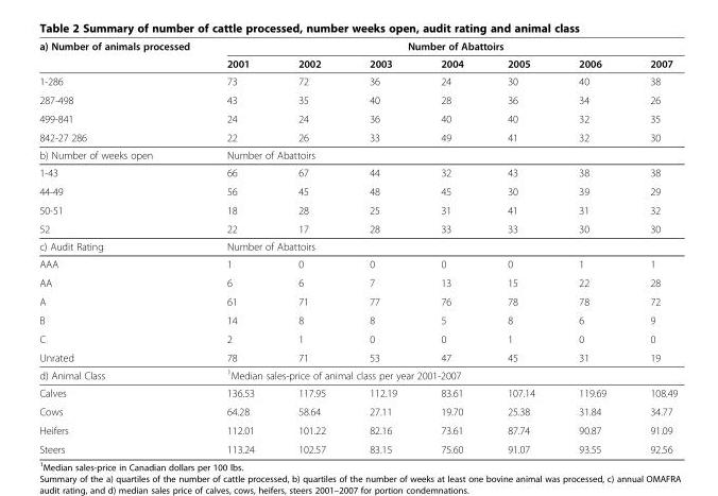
<table><thead><tr><td rowspan="2">a) Number of animals processed</td><td colspan="7">Number of Abattoirs</td></tr><tr><td>2001</td><td>2002</td><td>2003</td><td>2004</td><td>2005</td><td>2006</td><td>2007</td></tr></thead><tbody><tr><td>1-286</td><td>73</td><td>72</td><td>36</td><td>24</td><td>30</td><td>40</td><td>38</td></tr><tr><td>287-498</td><td>43</td><td>35</td><td>40</td><td>28</td><td>36</td><td>34</td><td>26</td></tr><tr><td>499-841</td><td>24</td><td>24</td><td>36</td><td>40</td><td>40</td><td>32</td><td>35</td></tr><tr><td>842-27 286</td><td>22</td><td>26</td><td>33</td><td>49</td><td>41</td><td>32</td><td>30</td></tr><tr><td>b) Number of weeks open</td><td colspan="7">Number of Abattoirs</td></tr><tr><td>1-43</td><td>66</td><td>67</td><td>44</td><td>32</td><td>43</td><td>38</td><td>38</td></tr><tr><td>44-49</td><td>56</td><td>45</td><td>48</td><td>45</td><td>30</td><td>39</td><td>29</td></tr><tr><td>50-51</td><td>18</td><td>28</td><td>25</td><td>31</td><td>41</td><td>31</td><td>32</td></tr><tr><td>52</td><td>22</td><td>17</td><td>28</td><td>33</td><td>33</td><td>30</td><td>30</td></tr><tr><td>c) Audit Rating</td><td colspan="7">Number of Abattoirs</td></tr><tr><td>AAA</td><td>1</td><td>0</td><td>0</td><td>0</td><td>0</td><td>1</td><td>1</td></tr><tr><td>AA</td><td>6</td><td>6</td><td>7</td><td>13</td><td>15</td><td>22</td><td>28</td></tr><tr><td>A</td><td>61</td><td>71</td><td>77</td><td>76</td><td>78</td><td>78</td><td>72</td></tr><tr><td>B</td><td>14</td><td>8</td><td>8</td><td>5</td><td>8</td><td>6</td><td>9</td></tr><tr><td>C</td><td>2</td><td>1</td><td>0</td><td>0</td><td>1</td><td>0</td><td>0</td></tr><tr><td>Unrated</td><td>78</td><td>71</td><td>53</td><td>47</td><td>45</td><td>31</td><td>19</td></tr><tr><td>d) Animal Class</td><td colspan="7"><sup>1</sup>Median sales-price of animal class per year 2001-2007</td></tr><tr><td>Calves</td><td>136.53</td><td>117.95</td><td>112.19</td><td>83.61</td><td>107.14</td><td>119.69</td><td>108.49</td></tr><tr><td>Cows</td><td>64.28</td><td>58.64</td><td>27.11</td><td>19.70</td><td>25.38</td><td>31.84</td><td>34.77</td></tr><tr><td>Heifers</td><td>112.01</td><td>101.22</td><td>82.16</td><td>73.61</td><td>87.74</td><td>90.87</td><td>91.09</td></tr><tr><td>Steers</td><td>113.24</td><td>102.57</td><td>83.15</td><td>75.60</td><td>91.07</td><td>93.55</td><td>92.56</td></tr></tbody></table>